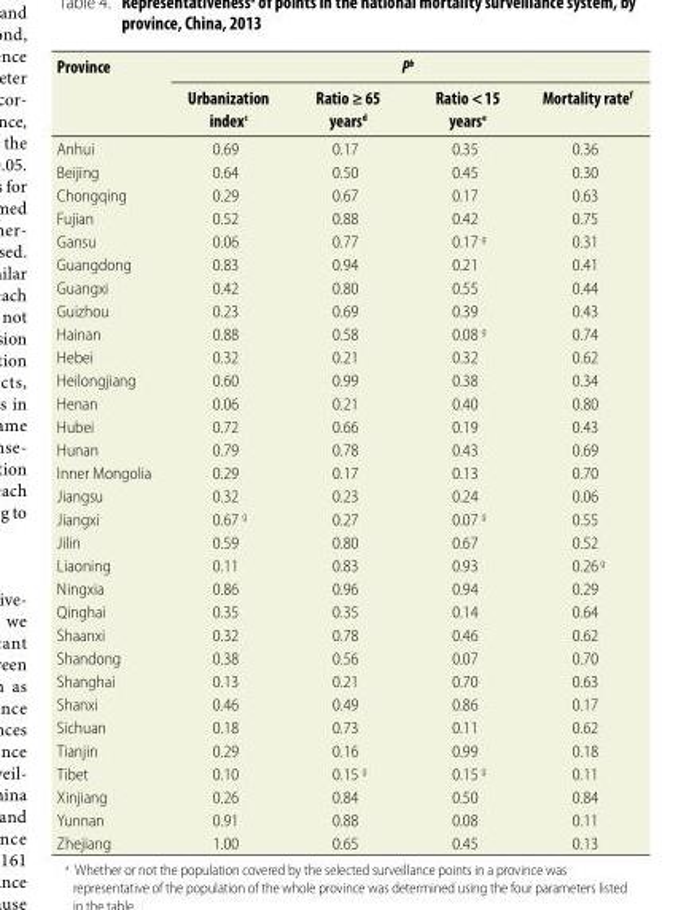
<table><thead><tr><td rowspan="2">Province</td><td colspan="4">P<sup>b</sup></td></tr><tr><td>Urbanization index<sup>c</sup></td><td>Ratio ≥ 65 years<sup>d</sup></td><td>Ratio &lt; 15 years<sup>e</sup></td><td>Mortality rate<sup>f</sup></td></tr></thead><tbody><tr><td>Anhui</td><td>0.69</td><td>0.17</td><td>0.35</td><td>0.36</td></tr><tr><td>Beijing</td><td>0.64</td><td>0.50</td><td>0.45</td><td>0.30</td></tr><tr><td>Chongqing</td><td>0.29</td><td>0.67</td><td>0.17</td><td>0.63</td></tr><tr><td>Fujian</td><td>0.52</td><td>0.88</td><td>0.42</td><td>0.75</td></tr><tr><td>Gansu</td><td>0.06</td><td>0.77</td><td>0.17 <sup>g</sup></td><td>0.31</td></tr><tr><td>Guangdong</td><td>0.83</td><td>0.94</td><td>0.21</td><td>0.41</td></tr><tr><td>Guangxi</td><td>0.42</td><td>0.80</td><td>0.55</td><td>0.44</td></tr><tr><td>Guizhou</td><td>0.23</td><td>0.69</td><td>0.39</td><td>0.43</td></tr><tr><td>Hainan</td><td>0.88</td><td>0.58</td><td>0.08 <sup>g</sup></td><td>0.74</td></tr><tr><td>Hebei</td><td>0.32</td><td>0.21</td><td>0.32</td><td>0.62</td></tr><tr><td>Heilongjiang</td><td>0.60</td><td>0.99</td><td>0.38</td><td>0.34</td></tr><tr><td>Henan</td><td>0.06</td><td>0.21</td><td>0.40</td><td>0.80</td></tr><tr><td>Hubei</td><td>0.72</td><td>0.66</td><td>0.19</td><td>0.43</td></tr><tr><td>Hunan</td><td>0.79</td><td>0.78</td><td>0.43</td><td>0.69</td></tr><tr><td>Inner Mongolia</td><td>0.29</td><td>0.17</td><td>0.13</td><td>0.70</td></tr><tr><td>Jiangsu</td><td>0.32</td><td>0.23</td><td>0.24</td><td>0.06</td></tr><tr><td>Jiangxi</td><td>0.67 <sup>g</sup></td><td>0.27</td><td>0.07 <sup>g</sup></td><td>0.55</td></tr><tr><td>Jilin</td><td>0.59</td><td>0.80</td><td>0.67</td><td>0.52</td></tr><tr><td>Liaoning</td><td>0.11</td><td>0.83</td><td>0.93</td><td>0.26 <sup>g</sup></td></tr><tr><td>Ningxia</td><td>0.86</td><td>0.96</td><td>0.94</td><td>0.29</td></tr><tr><td>Qinghai</td><td>0.35</td><td>0.35</td><td>0.14</td><td>0.64</td></tr><tr><td>Shaanxi</td><td>0.32</td><td>0.78</td><td>0.46</td><td>0.62</td></tr><tr><td>Shandong</td><td>0.38</td><td>0.56</td><td>0.07</td><td>0.70</td></tr><tr><td>Shanghai</td><td>0.13</td><td>0.21</td><td>0.70</td><td>0.63</td></tr><tr><td>Shanxi</td><td>0.46</td><td>0.49</td><td>0.86</td><td>0.17</td></tr><tr><td>Sichuan</td><td>0.18</td><td>0.73</td><td>0.11</td><td>0.62</td></tr><tr><td>Tianjin</td><td>0.29</td><td>0.16</td><td>0.99</td><td>0.18</td></tr><tr><td>Tibet</td><td>0.10</td><td>0.15 <sup>g</sup></td><td>0.15 <sup>g</sup></td><td>0.11</td></tr><tr><td>Xinjiang</td><td>0.26</td><td>0.84</td><td>0.50</td><td>0.84</td></tr><tr><td>Yunnan</td><td>0.91</td><td>0.88</td><td>0.08</td><td>0.11</td></tr><tr><td>Zhejiang</td><td>1.00</td><td>0.65</td><td>0.45</td><td>0.13</td></tr></tbody></table>